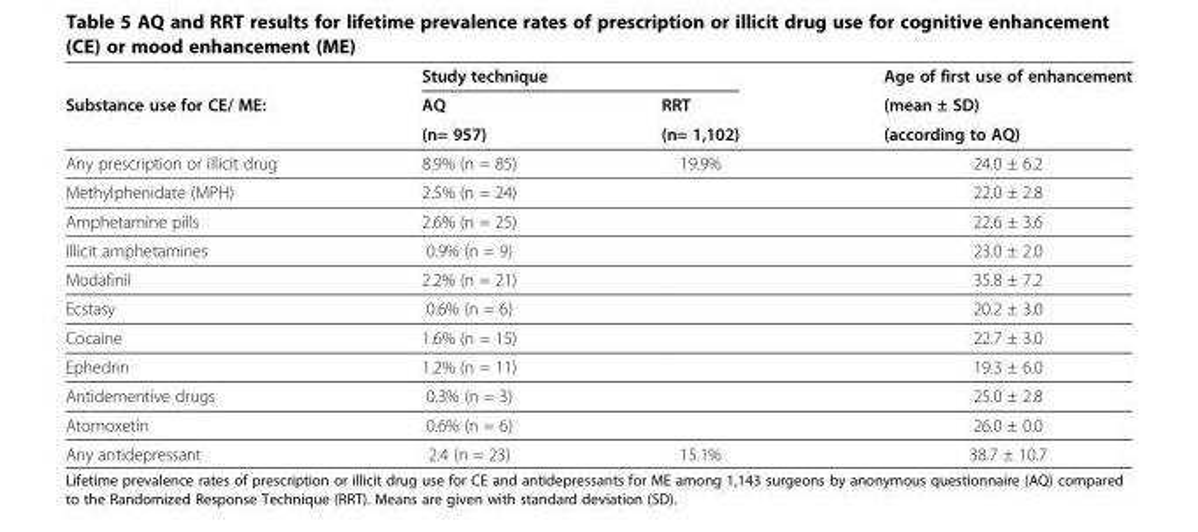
<table><thead><tr><td rowspan="3">Substance use for CE/ ME:</td><td colspan="2">Study technique</td><td rowspan="3">Age of first use of enhancement (mean ± SD) (according to AQ)</td></tr><tr><td rowspan="2">AQ (n= 957)</td><td rowspan="2">RRT (n= 1,102)</td></tr><tr></tr></thead><tbody><tr><td>Any prescription or illicit drug</td><td>8.9% (n = 85)</td><td>19.9%</td><td>24.0 ± 6.2</td></tr><tr><td>Methylphenidate (MPH)</td><td>2.5% (n = 24)</td><td></td><td>22.0 ± 2.8</td></tr><tr><td>Amphetamine pills</td><td>2.6% (n = 25)</td><td></td><td>22.6 ± 3.6</td></tr><tr><td>Illicit amphetamines</td><td>0.9% (n = 9)</td><td></td><td>23.0 ± 2.0</td></tr><tr><td>Modafinil</td><td>2.2% (n = 21)</td><td></td><td>35.8 ± 7.2</td></tr><tr><td>Ecstasy</td><td>0.6% (n = 6)</td><td></td><td>20.2 ± 3.0</td></tr><tr><td>Cocaine</td><td>1.6% (n = 15)</td><td></td><td>22.7 ± 3.0</td></tr><tr><td>Ephedrin</td><td>1.2% (n = 11)</td><td></td><td>19.3 ± 6.0</td></tr><tr><td>Antidementive drugs</td><td>0.3% (n = 3)</td><td></td><td>25.0 ± 2.8</td></tr><tr><td>Atomoxetin</td><td>0.6% (n = 6)</td><td></td><td>26.0 ± 0.0</td></tr><tr><td>Any antidepressant</td><td>2.4 (n = 23)</td><td>15.1%</td><td>38.7 ± 10.7</td></tr></tbody></table>